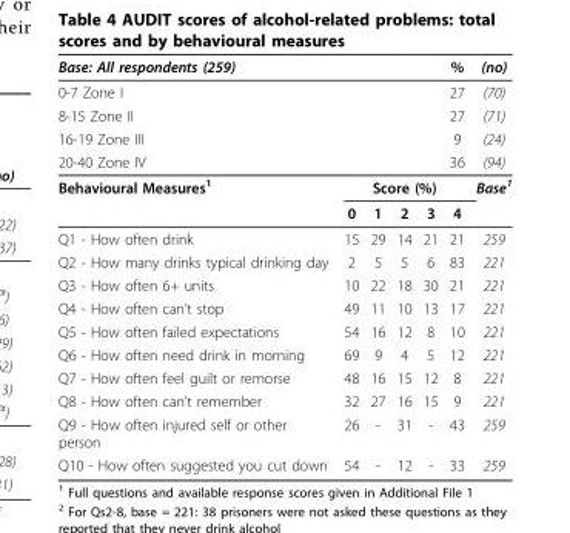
<table><thead><tr><td colspan="5">Base: All respondents (259)</td><td>%</td><td>(no)</td></tr></thead><tbody><tr><td colspan="5">0-7 Zone I</td><td>27</td><td>(70)</td></tr><tr><td colspan="5">8-15 Zone II</td><td>27</td><td>(71)</td></tr><tr><td colspan="5">16-19 Zone III</td><td>9</td><td>(24)</td></tr><tr><td colspan="5">20-40 Zone IV</td><td>36</td><td>(94)</td></tr><tr><td rowspan="2">Behavioural Measures<sup>1</sup></td><td colspan="5">Score (%)</td><td>Base<sup>1</sup></td></tr><tr><td>0</td><td>1</td><td>2</td><td>3</td><td>4</td><td></td></tr><tr><td>Q1 - How often drink</td><td>15</td><td>29</td><td>14</td><td>21</td><td>21</td><td>259</td></tr><tr><td>Q2 - How many drinks typical drinking day</td><td>2</td><td>5</td><td>5</td><td>6</td><td>83</td><td>221</td></tr><tr><td>Q3 - How often 6+ units</td><td>10</td><td>22</td><td>18</td><td>30</td><td>21</td><td>221</td></tr><tr><td>Q4 - How often can’t stop</td><td>49</td><td>11</td><td>10</td><td>13</td><td>17</td><td>221</td></tr><tr><td>Q5 - How often failed expectations</td><td>54</td><td>16</td><td>12</td><td>8</td><td>10</td><td>221</td></tr><tr><td>Q6 - How often need drink in morning</td><td>69</td><td>9</td><td>4</td><td>5</td><td>12</td><td>221</td></tr><tr><td>Q7 - How often feel guilt or remorse</td><td>48</td><td>16</td><td>15</td><td>12</td><td>8</td><td>221</td></tr><tr><td>Q8 - How often can’t remember</td><td>32</td><td>27</td><td>16</td><td>15</td><td>9</td><td>221</td></tr><tr><td>Q9 - How often injured self or other person</td><td>26</td><td>-</td><td>31</td><td>-</td><td>43</td><td>259</td></tr><tr><td>Q10 - How often suggested you cut down</td><td>54</td><td>-</td><td>12</td><td>-</td><td>33</td><td>259</td></tr></tbody></table>